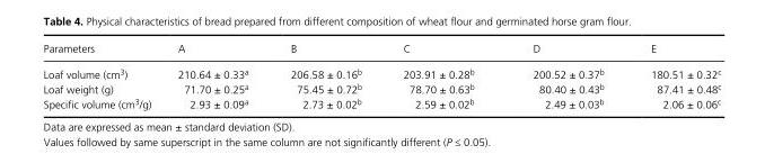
<table><thead><tr><td>Parameters</td><td>A</td><td>B</td><td>C</td><td>D</td><td>E</td></tr></thead><tbody><tr><td>Loaf volume (cm<sup>3</sup>)</td><td>210.64 ± 0.33<sup>a</sup></td><td>206.58 ± 0.16<sup>b</sup></td><td>203.91 ± 0.28<sup>b</sup></td><td>200.52 ± 0.37<sup>b</sup></td><td>180.51 ± 0.32<sup>c</sup></td></tr><tr><td>Loaf weight (g)</td><td>71.70 ± 0.25<sup>a</sup></td><td>75.45 ± 0.72<sup>b</sup></td><td>78.70 ± 0.63<sup>b</sup></td><td>80.40 ± 0.43<sup>b</sup></td><td>87.41 ± 0.48<sup>c</sup></td></tr><tr><td>Specific volume (cm<sup>3</sup>/g)</td><td>2.93 ± 0.09<sup>a</sup></td><td>2.73 ± 0.02<sup>b</sup></td><td>2.59 ± 0.02<sup>b</sup></td><td>2.49 ± 0.03<sup>b</sup></td><td>2.06 ± 0.06<sup>c</sup></td></tr></tbody></table>